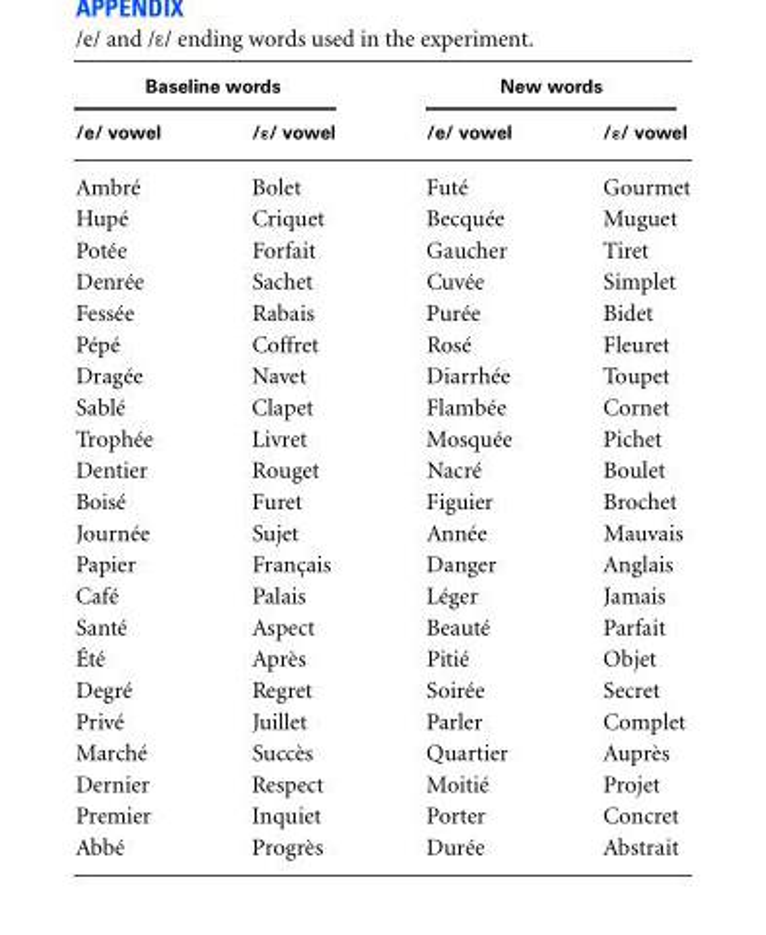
<table><thead><tr><td colspan="2">Baseline words</td><td colspan="2">New words</td></tr><tr><td>/e/ vowel</td><td>/ε/ vowel</td><td>/e/ vowel</td><td>/ε/ vowel</td></tr></thead><tbody><tr><td>Ambré</td><td>Bolet</td><td>Futé</td><td>Gourmet</td></tr><tr><td>Hupé</td><td>Criquet</td><td>Becquée</td><td>Muguet</td></tr><tr><td>Potée</td><td>Forfait</td><td>Gaucher</td><td>Tiret</td></tr><tr><td>Denrée</td><td>Sachet</td><td>Cuvée</td><td>Simplet</td></tr><tr><td>Fessée</td><td>Rabais</td><td>Purée</td><td>Bidet</td></tr><tr><td>Pépé</td><td>Coffret</td><td>Rosé</td><td>Fleuret</td></tr><tr><td>Dragée</td><td>Navet</td><td>Diarrhée</td><td>Toupet</td></tr><tr><td>Sablé</td><td>Clapet</td><td>Flambée</td><td>Cornet</td></tr><tr><td>Trophée</td><td>Livret</td><td>Mosquée</td><td>Pichet</td></tr><tr><td>Dentier</td><td>Rouget</td><td>Nacré</td><td>Boulet</td></tr><tr><td>Boisé</td><td>Furet</td><td>Figuier</td><td>Brochet</td></tr><tr><td>Journée</td><td>Sujet</td><td>Année</td><td>Mauvais</td></tr><tr><td>Papier</td><td>Français</td><td>Danger</td><td>Anglais</td></tr><tr><td>Café</td><td>Palais</td><td>Léger</td><td>Jamais</td></tr><tr><td>Santé</td><td>Aspect</td><td>Beauté</td><td>Parfait</td></tr><tr><td>Été</td><td>Après</td><td>Pitié</td><td>Objet</td></tr><tr><td>Degré</td><td>Regret</td><td>Soirée</td><td>Secret</td></tr><tr><td>Privé</td><td>Juillet</td><td>Parler</td><td>Complet</td></tr><tr><td>Marché</td><td>Succès</td><td>Quartier</td><td>Auprès</td></tr><tr><td>Dernier</td><td>Respect</td><td>Moitié</td><td>Projet</td></tr><tr><td>Premier</td><td>Inquiet</td><td>Porter</td><td>Concret</td></tr><tr><td>Abbé</td><td>Progrès</td><td>Durée</td><td>Abstrait</td></tr></tbody></table>